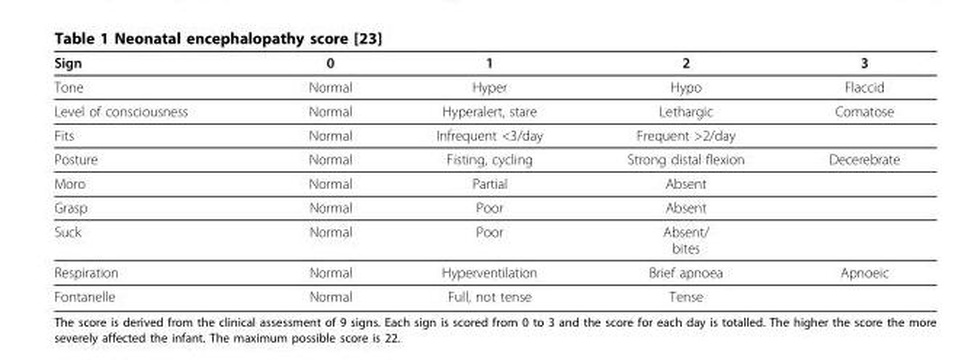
<table><thead><tr><td>Sign</td><td>0</td><td>1</td><td>2</td><td>3</td></tr></thead><tbody><tr><td>Tone</td><td>Normal</td><td>Hyper</td><td>Hypo</td><td>Flaccid</td></tr><tr><td>Level of consciousness</td><td>Normal</td><td>Hyperalert, stare</td><td>Lethargic</td><td>Comatose</td></tr><tr><td>Fits</td><td>Normal</td><td>Infrequent &lt;3/day</td><td>Frequent &gt;2/day</td><td></td></tr><tr><td>Posture</td><td>Normal</td><td>Fisting, cycling</td><td>Strong distal flexion</td><td>Decerebrate</td></tr><tr><td>Moro</td><td>Normal</td><td>Partial</td><td>Absent</td><td></td></tr><tr><td>Grasp</td><td>Normal</td><td>Poor</td><td>Absent</td><td></td></tr><tr><td>Suck</td><td>Normal</td><td>Poor</td><td>Absent/ bites</td><td></td></tr><tr><td>Respiration</td><td>Normal</td><td>Hyperventilation</td><td>Brief apnoea</td><td>Apnoeic</td></tr><tr><td>Fontanelle</td><td>Normal</td><td>Full, not tense</td><td>Tense</td><td></td></tr></tbody></table>